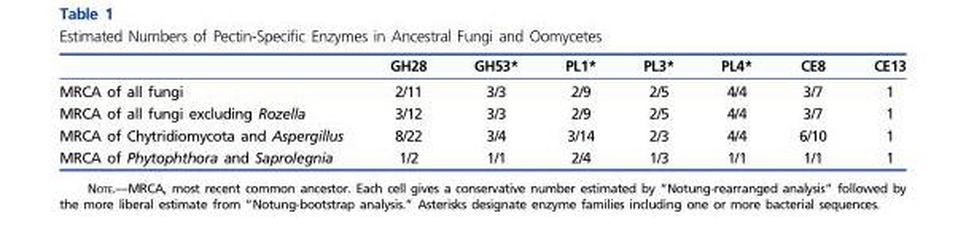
<table><thead><tr><td></td><td>GH28</td><td>GH53*</td><td>PL1*</td><td>PL3*</td><td>PL4*</td><td>CE8</td><td>CE13</td></tr></thead><tbody><tr><td>MRCA of all fungi</td><td>2/11</td><td>3/3</td><td>2/9</td><td>2/5</td><td>4/4</td><td>3/7</td><td>1</td></tr><tr><td>MRCA of all fungi excluding Rozella</td><td>3/12</td><td>3/3</td><td>2/9</td><td>2/5</td><td>4/4</td><td>3/7</td><td>1</td></tr><tr><td>MRCA of Chytridiomycota and Aspergillus</td><td>8/22</td><td>3/4</td><td>3/14</td><td>2/3</td><td>4/4</td><td>6/10</td><td>1</td></tr><tr><td>MRCA of Phytophthora and Saprolegnia</td><td>1/2</td><td>1/1</td><td>2/4</td><td>1/3</td><td>1/1</td><td>1/1</td><td>1</td></tr></tbody></table>